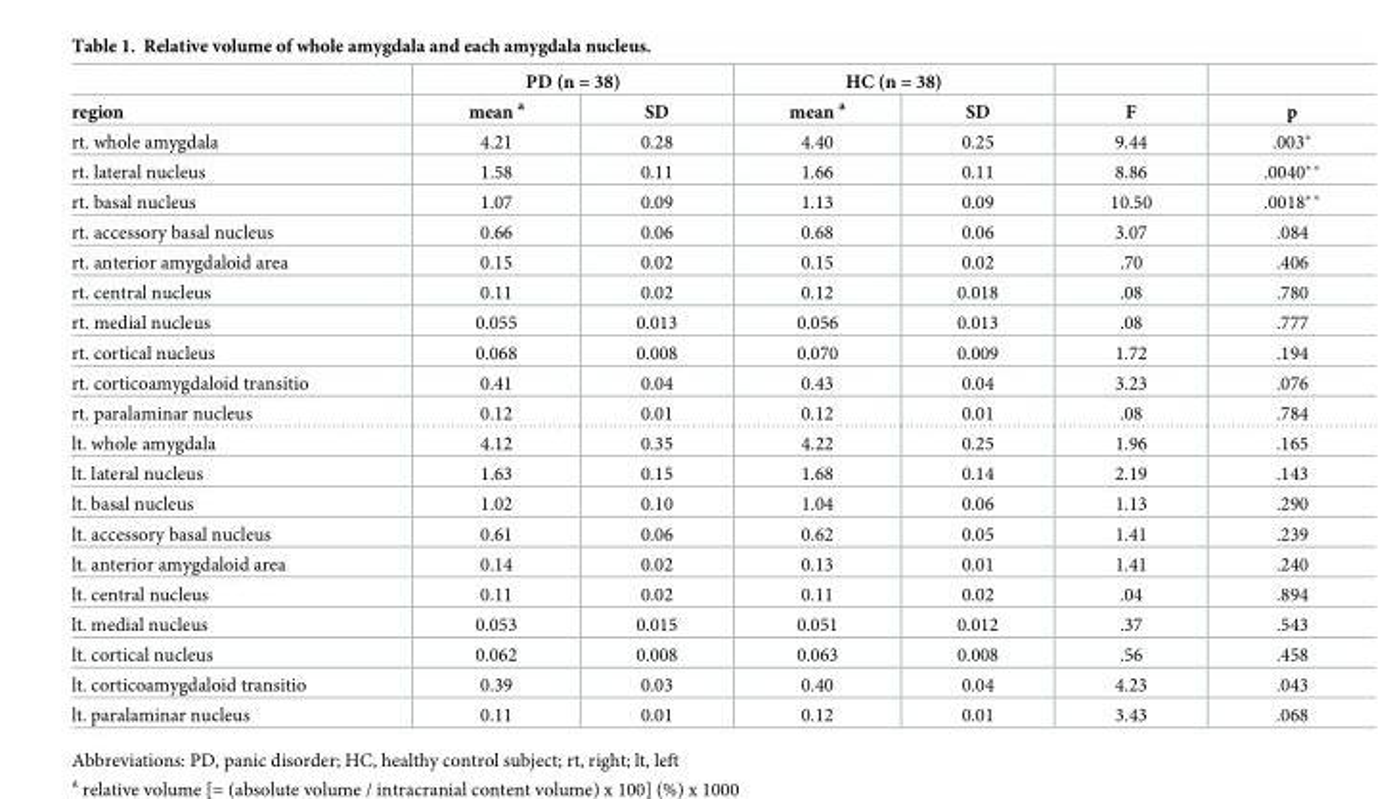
<table><thead><tr><td rowspan="2">region</td><td colspan="2">PD (n = 38)</td><td colspan="2">HC (n = 38)</td><td rowspan="2">F</td><td rowspan="2">p</td></tr><tr><td>mean <sup>a</sup></td><td>SD</td><td>mean <sup>a</sup></td><td>SD</td></tr></thead><tbody><tr><td>rt. whole amygdala</td><td>4.21</td><td>0.28</td><td>4.40</td><td>0.25</td><td>9.44</td><td>.003*</td></tr><tr><td>rt. lateral nucleus</td><td>1.58</td><td>0.11</td><td>1.66</td><td>0.11</td><td>8.86</td><td>.0040**</td></tr><tr><td>rt. basal nucleus</td><td>1.07</td><td>0.09</td><td>1.13</td><td>0.09</td><td>10.50</td><td>.0018**</td></tr><tr><td>rt. accessory basal nucleus</td><td>0.66</td><td>0.06</td><td>0.68</td><td>0.06</td><td>3.07</td><td>.084</td></tr><tr><td>rt. anterior amygdaloid area</td><td>0.15</td><td>0.02</td><td>0.15</td><td>0.02</td><td>.70</td><td>.406</td></tr><tr><td>rt. central nucleus</td><td>0.11</td><td>0.02</td><td>0.12</td><td>0.018</td><td>.08</td><td>.780</td></tr><tr><td>rt. medial nucleus</td><td>0.055</td><td>0.013</td><td>0.056</td><td>0.013</td><td>.08</td><td>.777</td></tr><tr><td>rt. cortical nucleus</td><td>0.068</td><td>0.008</td><td>0.070</td><td>0.009</td><td>1.72</td><td>.194</td></tr><tr><td>rt. corticoamygdaloid transitio</td><td>0.41</td><td>0.04</td><td>0.43</td><td>0.04</td><td>3.23</td><td>.076</td></tr><tr><td>rt. paralaminar nucleus</td><td>0.12</td><td>0.01</td><td>0.12</td><td>0.01</td><td>.08</td><td>.784</td></tr><tr><td>lt. whole amygdala</td><td>4.12</td><td>0.35</td><td>4.22</td><td>0.25</td><td>1.96</td><td>.165</td></tr><tr><td>lt. lateral nucleus</td><td>1.63</td><td>0.15</td><td>1.68</td><td>0.14</td><td>2.19</td><td>.143</td></tr><tr><td>lt. basal nucleus</td><td>1.02</td><td>0.10</td><td>1.04</td><td>0.06</td><td>1.13</td><td>.290</td></tr><tr><td>lt. accessory basal nucleus</td><td>0.61</td><td>0.06</td><td>0.62</td><td>0.05</td><td>1.41</td><td>.239</td></tr><tr><td>lt. anterior amygdaloid area</td><td>0.14</td><td>0.02</td><td>0.13</td><td>0.01</td><td>1.41</td><td>.240</td></tr><tr><td>lt. central nucleus</td><td>0.11</td><td>0.02</td><td>0.11</td><td>0.02</td><td>.04</td><td>.894</td></tr><tr><td>lt. medial nucleus</td><td>0.053</td><td>0.015</td><td>0.051</td><td>0.012</td><td>.37</td><td>.543</td></tr><tr><td>lt. cortical nucleus</td><td>0.062</td><td>0.008</td><td>0.063</td><td>0.008</td><td>.56</td><td>.458</td></tr><tr><td>lt. corticoamygdaloid transitio</td><td>0.39</td><td>0.03</td><td>0.40</td><td>0.04</td><td>4.23</td><td>.043</td></tr><tr><td>lt. paralaminar nucleus</td><td>0.11</td><td>0.01</td><td>0.12</td><td>0.01</td><td>3.43</td><td>.068</td></tr></tbody></table>